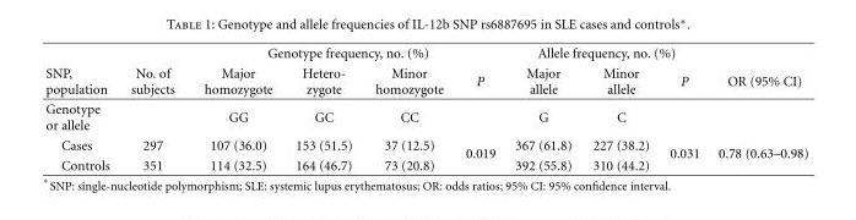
<table><thead><tr><td rowspan="2">SNP, population</td><td rowspan="2">No. of subjects</td><td colspan="4">Genotype frequency, no. (%)</td><td colspan="3">Allele frequency, no. (%)</td><td rowspan="2">OR (95% CI)</td></tr><tr><td>Major homozygote</td><td>Hetero- zygote</td><td>Minor homozygote</td><td>P</td><td>Major allele</td><td>Minor allele</td><td>P</td></tr></thead><tbody><tr><td>Genotype or allele</td><td></td><td>GG</td><td>GC</td><td>CC</td><td></td><td>G</td><td>C</td><td></td><td></td></tr><tr><td>Cases</td><td>297</td><td>107 (36.0)</td><td>153 (51.5)</td><td>37 (12.5)</td><td rowspan="2">0.019</td><td>367 (61.8)</td><td>227 (38.2)</td><td rowspan="2">0.031</td><td rowspan="2">0.78 (0.63–0.98)</td></tr><tr><td>Controls</td><td>351</td><td>114 (32.5)</td><td>164 (46.7)</td><td>73 (20.8)</td><td>392 (55.8)</td><td>310 (44.2)</td></tr></tbody></table>